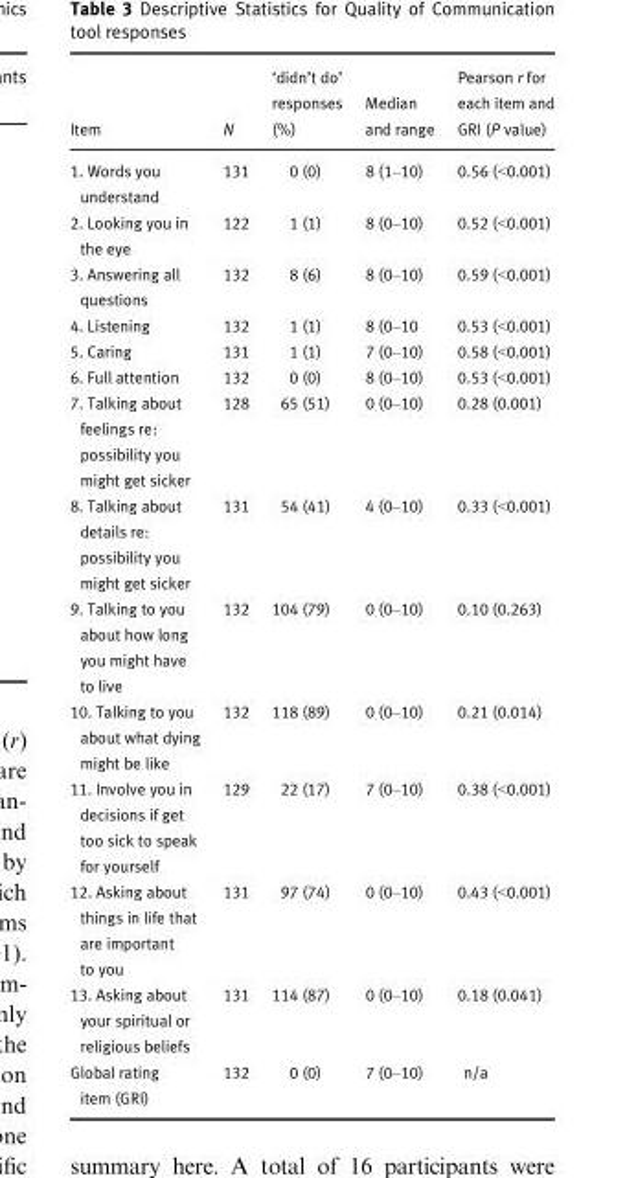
<table><thead><tr><td>Item</td><td>N</td><td>‘didn’t do’ responses (%)</td><td>Median and range</td><td>Pearson r for each item and GRI (P value)</td></tr></thead><tbody><tr><td>1. Words you understand</td><td>131</td><td>0 (0)</td><td>8 (1–10)</td><td>0.56 (&lt;0.001)</td></tr><tr><td>2. Looking you in the eye</td><td>122</td><td>1 (1)</td><td>8 (0–10)</td><td>0.52 (&lt;0.001)</td></tr><tr><td>3. Answering all questions</td><td>132</td><td>8 (6)</td><td>8 (0–10)</td><td>0.59 (&lt;0.001)</td></tr><tr><td>4. Listening</td><td>132</td><td>1 (1)</td><td>8 (0–10</td><td>0.53 (&lt;0.001)</td></tr><tr><td>5. Caring</td><td>131</td><td>1 (1)</td><td>7 (0–10)</td><td>0.58 (&lt;0.001)</td></tr><tr><td>6. Full attention</td><td>132</td><td>0 (0)</td><td>8 (0–10)</td><td>0.53 (&lt;0.001)</td></tr><tr><td>7. Talking about feelings re: possibility you might get sicker</td><td>128</td><td>65 (51)</td><td>0 (0–10)</td><td>0.28 (0.001)</td></tr><tr><td>8. Talking about details re: possibility you might get sicker</td><td>131</td><td>54 (41)</td><td>4 (0–10)</td><td>0.33 (&lt;0.001)</td></tr><tr><td>9. Talking to you about how long you might have to live</td><td>132</td><td>104 (79)</td><td>0 (0–10)</td><td>0.10 (0.263)</td></tr><tr><td>10. Talking to you about what dying might be like</td><td>132</td><td>118 (89)</td><td>0 (0–10)</td><td>0.21 (0.014)</td></tr><tr><td>11. Involve you in decisions if get too sick to speak for yourself</td><td>129</td><td>22 (17)</td><td>7 (0–10)</td><td>0.38 (&lt;0.001)</td></tr><tr><td>12. Asking about things in life that are important to you</td><td>131</td><td>97 (74)</td><td>0 (0–10)</td><td>0.43 (&lt;0.001)</td></tr><tr><td>13. Asking about your spiritual or religious beliefs</td><td>131</td><td>114 (87)</td><td>0 (0–10)</td><td>0.18 (0.041)</td></tr><tr><td>Global rating item (GRI)</td><td>132</td><td>0 (0)</td><td>7 (0–10)</td><td>n/a</td></tr></tbody></table>